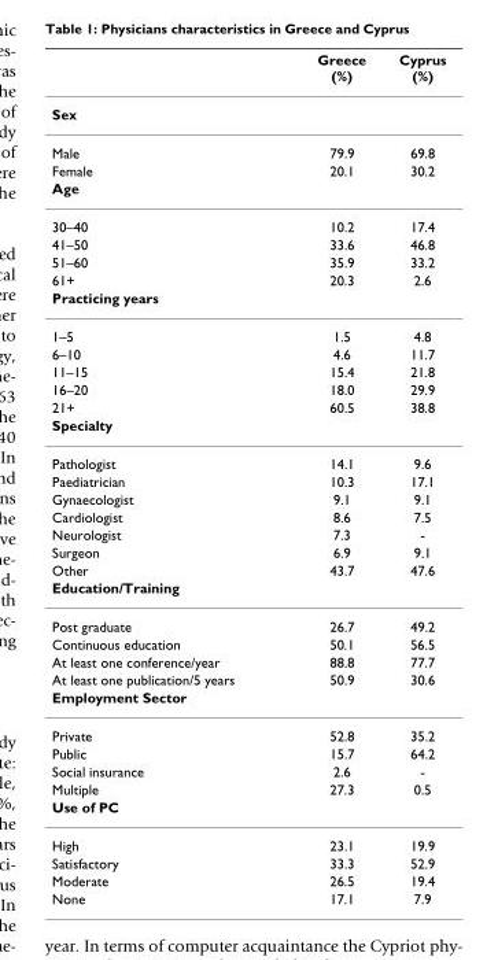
<table><thead><tr><td></td><td>Greece (%)</td><td>Cyprus (%)</td></tr></thead><tbody><tr><td colspan="3">Sex</td></tr><tr><td>Male</td><td>79.9</td><td>69.8</td></tr><tr><td>Female</td><td>20.1</td><td>30.2</td></tr><tr><td colspan="3">Age</td></tr><tr><td>30–40</td><td>10.2</td><td>17.4</td></tr><tr><td>41–50</td><td>33.6</td><td>46.8</td></tr><tr><td>51–60</td><td>35.9</td><td>33.2</td></tr><tr><td>61+</td><td>20.3</td><td>2.6</td></tr><tr><td colspan="3">Practicing years</td></tr><tr><td>1–5</td><td>1.5</td><td>4.8</td></tr><tr><td>6–10</td><td>4.6</td><td>11.7</td></tr><tr><td>11–15</td><td>15.4</td><td>21.8</td></tr><tr><td>16–20</td><td>18.0</td><td>29.9</td></tr><tr><td>21+</td><td>60.5</td><td>38.8</td></tr><tr><td colspan="3">Specialty</td></tr><tr><td>Pathologist</td><td>14.1</td><td>9.6</td></tr><tr><td>Paediatrician</td><td>10.3</td><td>17.1</td></tr><tr><td>Gynaecologist</td><td>9.1</td><td>9.1</td></tr><tr><td>Cardiologist</td><td>8.6</td><td>7.5</td></tr><tr><td>Neurologist</td><td>7.3</td><td>-</td></tr><tr><td>Surgeon</td><td>6.9</td><td>9.1</td></tr><tr><td>Other</td><td>43.7</td><td>47.6</td></tr><tr><td colspan="3">Education/Training</td></tr><tr><td>Post graduate</td><td>26.7</td><td>49.2</td></tr><tr><td>Continuous education</td><td>50.1</td><td>56.5</td></tr><tr><td>At least one conference/year</td><td>88.8</td><td>77.7</td></tr><tr><td>At least one publication/5 years</td><td>50.9</td><td>30.6</td></tr><tr><td colspan="3">Employment Sector</td></tr><tr><td>Private</td><td>52.8</td><td>35.2</td></tr><tr><td>Public</td><td>15.7</td><td>64.2</td></tr><tr><td>Social insurance</td><td>2.6</td><td>-</td></tr><tr><td>Multiple</td><td>27.3</td><td>0.5</td></tr><tr><td colspan="3">Use of PC</td></tr><tr><td>High</td><td>23.1</td><td>19.9</td></tr><tr><td>Satisfactory</td><td>33.3</td><td>52.9</td></tr><tr><td>Moderate</td><td>26.5</td><td>19.4</td></tr><tr><td>None</td><td>17.1</td><td>7.9</td></tr></tbody></table>